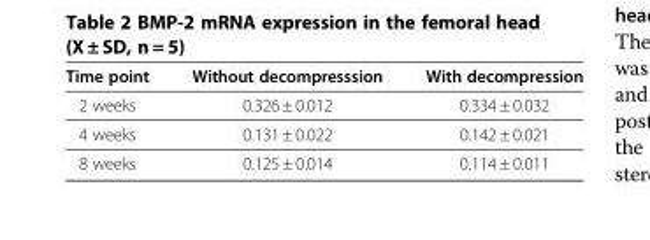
<table><thead><tr><td>Time point</td><td>Without decompresssion</td><td>With decompression</td></tr></thead><tbody><tr><td>2 weeks</td><td>0.326 ± 0.012</td><td>0.334 ± 0.032</td></tr><tr><td>4 weeks</td><td>0.131 ± 0.022</td><td>0.142 ± 0.021</td></tr><tr><td>8 weeks</td><td>0.125 ± 0.014</td><td>0.114 ± 0.011</td></tr></tbody></table>